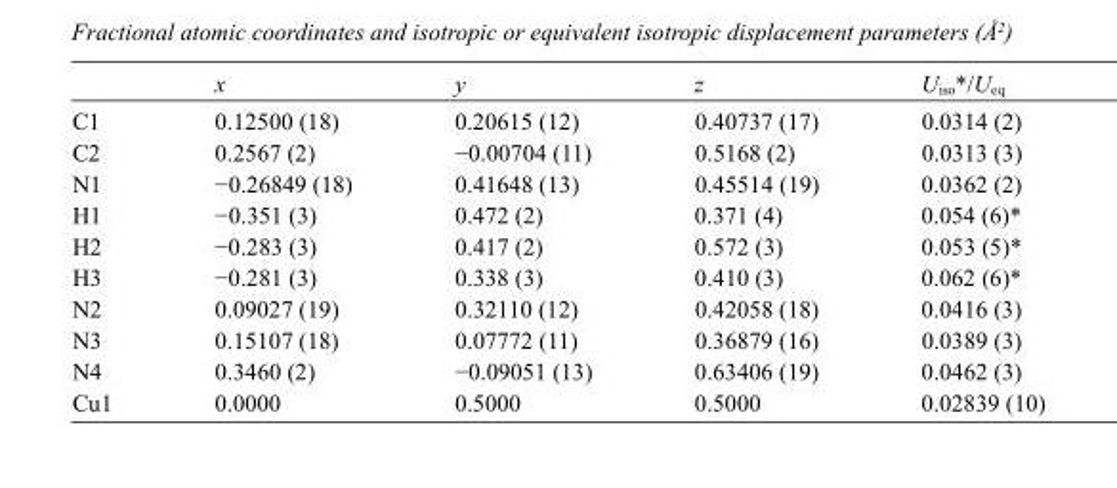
<table><thead><tr><td></td><td>x</td><td>y</td><td>z</td><td>U<sub>iso</sub>*/U<sub>eq</sub></td></tr></thead><tbody><tr><td>C1</td><td>0.12500 (18)</td><td>0.20615 (12)</td><td>0.40737 (17)</td><td>0.0314 (2)</td></tr><tr><td>C2</td><td>0.2567 (2)</td><td>−0.00704 (11)</td><td>0.5168 (2)</td><td>0.0313 (3)</td></tr><tr><td>N1</td><td>−0.26849 (18)</td><td>0.41648 (13)</td><td>0.45514 (19)</td><td>0.0362 (2)</td></tr><tr><td>H1</td><td>−0.351 (3)</td><td>0.472 (2)</td><td>0.371 (4)</td><td>0.054 (6)*</td></tr><tr><td>H2</td><td>−0.283 (3)</td><td>0.417 (2)</td><td>0.572 (3)</td><td>0.053 (5)*</td></tr><tr><td>H3</td><td>−0.281 (3)</td><td>0.338 (3)</td><td>0.410 (3)</td><td>0.062 (6)*</td></tr><tr><td>N2</td><td>0.09027 (19)</td><td>0.32110 (12)</td><td>0.42058 (18)</td><td>0.0416 (3)</td></tr><tr><td>N3</td><td>0.15107 (18)</td><td>0.07772 (11)</td><td>0.36879 (16)</td><td>0.0389 (3)</td></tr><tr><td>N4</td><td>0.3460 (2)</td><td>−0.09051 (13)</td><td>0.63406 (19)</td><td>0.0462 (3)</td></tr><tr><td>Cu1</td><td>0.0000</td><td>0.5000</td><td>0.5000</td><td>0.02839 (10)</td></tr></tbody></table>